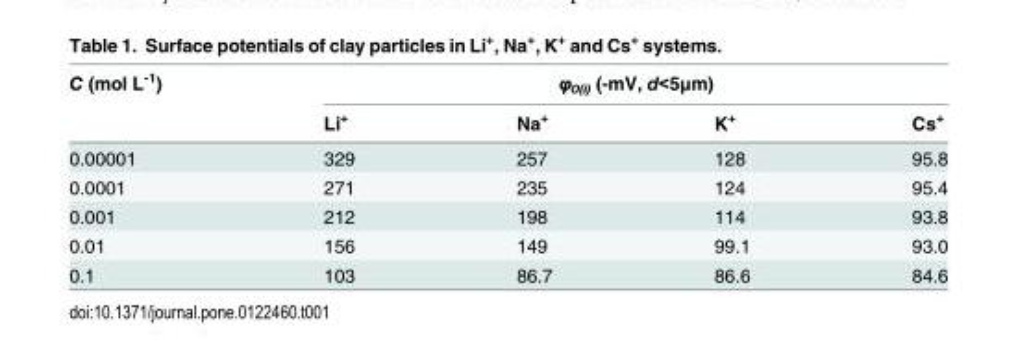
<table><thead><tr><td rowspan="2">C (mol L<sup>-1</sup>)</td><td rowspan="2">Li<sup>+</sup></td><td colspan="3">φ<sub>0(i)</sub> (-mV, d&lt;5μm)</td></tr><tr><td>Na<sup>+</sup></td><td>K<sup>+</sup></td><td>Cs<sup>+</sup></td></tr></thead><tbody><tr><td>0.00001</td><td>329</td><td>257</td><td>128</td><td>95.8</td></tr><tr><td>0.0001</td><td>271</td><td>235</td><td>124</td><td>95.4</td></tr><tr><td>0.001</td><td>212</td><td>198</td><td>114</td><td>93.8</td></tr><tr><td>0.01</td><td>156</td><td>149</td><td>99.1</td><td>93.0</td></tr><tr><td>0.1</td><td>103</td><td>86.7</td><td>86.6</td><td>84.6</td></tr></tbody></table>